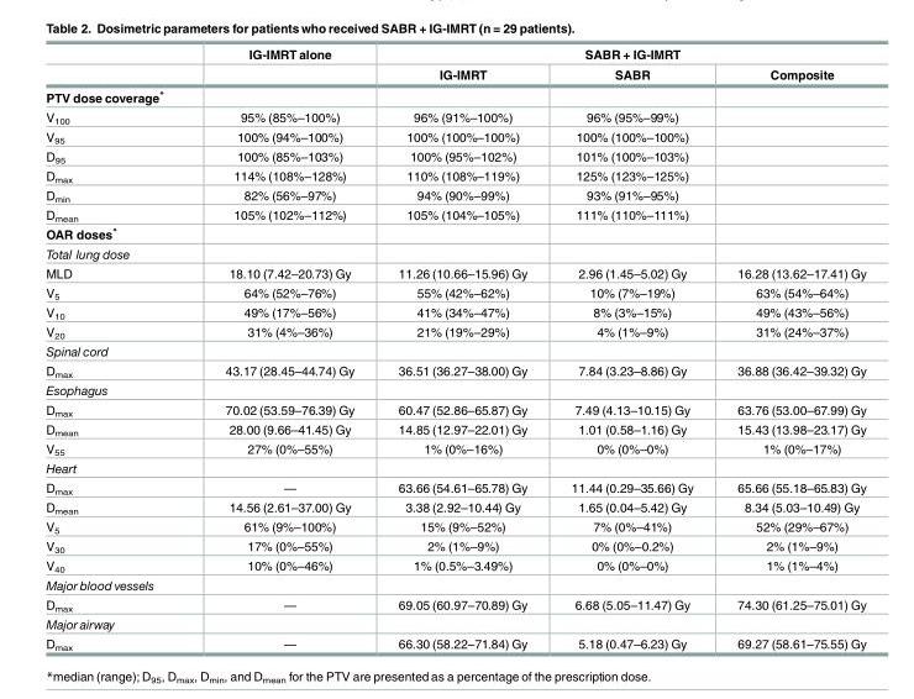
<table><thead><tr><td rowspan="2"></td><td rowspan="2">IG-IMRT alone</td><td colspan="3">SABR + IG-IMRT</td></tr><tr><td>IG-IMRT</td><td>SABR</td><td>Composite</td></tr></thead><tbody><tr><td colspan="5">PTV dose coverage*</td></tr><tr><td>V<sub>100</sub></td><td>95% (85%–100%)</td><td>96% (91%–100%)</td><td>96% (95%–99%)</td><td></td></tr><tr><td>V<sub>95</sub></td><td>100% (94%–100%)</td><td>100% (100%–100%)</td><td>100% (100%–100%)</td><td></td></tr><tr><td>D<sub>95</sub></td><td>100% (85%–103%)</td><td>100% (95%–102%)</td><td>101% (100%–103%)</td><td></td></tr><tr><td>D<sub>max</sub></td><td>114% (108%–128%)</td><td>110% (108%–119%)</td><td>125% (123%–125%)</td><td></td></tr><tr><td>D<sub>min</sub></td><td>82% (56%–97%)</td><td>94% (90%–99%)</td><td>93% (91%–95%)</td><td></td></tr><tr><td>D<sub>mean</sub></td><td>105% (102%–112%)</td><td>105% (104%–105%)</td><td>111% (110%–111%)</td><td></td></tr><tr><td colspan="5">OAR doses*</td></tr><tr><td colspan="5">Total lung dose</td></tr><tr><td>MLD</td><td>18.10 (7.42–20.73) Gy</td><td>11.26 (10.66–15.96) Gy</td><td>2.96 (1.45–5.02) Gy</td><td>16.28 (13.62–17.41) Gy</td></tr><tr><td>V<sub>5</sub></td><td>64% (52%–76%)</td><td>55% (42%–62%)</td><td>10% (7%–19%)</td><td>63% (54%–64%)</td></tr><tr><td>V<sub>10</sub></td><td>49% (17%–56%)</td><td>41% (34%–47%)</td><td>8% (3%–15%)</td><td>49% (43%–56%)</td></tr><tr><td>V<sub>20</sub></td><td>31% (4%–36%)</td><td>21% (19%–29%)</td><td>4% (1%–9%)</td><td>31% (24%–37%)</td></tr><tr><td colspan="5">Spinal cord</td></tr><tr><td>D<sub>max</sub></td><td>43.17 (28.45–44.74) Gy</td><td>36.51 (36.27–38.00) Gy</td><td>7.84 (3.23–8.86) Gy</td><td>36.88 (36.42–39.32) Gy</td></tr><tr><td colspan="5">Esophagus</td></tr><tr><td>D<sub>max</sub></td><td>70.02 (53.59–76.39) Gy</td><td>60.47 (52.86–65.87) Gy</td><td>7.49 (4.13–10.15) Gy</td><td>63.76 (53.00–67.99) Gy</td></tr><tr><td>D<sub>mean</sub></td><td>28.00 (9.66–41.45) Gy</td><td>14.85 (12.97–22.01) Gy</td><td>1.01 (0.58–1.16) Gy</td><td>15.43 (13.98–23.17) Gy</td></tr><tr><td>V<sub>55</sub></td><td>27% (0%–55%)</td><td>1% (0%–16%)</td><td>0% (0%–0%)</td><td>1% (0%–17%)</td></tr><tr><td colspan="5">Heart</td></tr><tr><td>D<sub>max</sub></td><td>—</td><td>63.66 (54.61–65.78) Gy</td><td>11.44 (0.29–35.66) Gy</td><td>65.66 (55.18–65.83) Gy</td></tr><tr><td>D<sub>mean</sub></td><td>14.56 (2.61–37.00) Gy</td><td>3.38 (2.92–10.44) Gy</td><td>1.65 (0.04–5.42) Gy</td><td>8.34 (5.03–10.49) Gy</td></tr><tr><td>V<sub>5</sub></td><td>61% (9%–100%)</td><td>15% (9%–52%)</td><td>7% (0%–41%)</td><td>52% (29%–67%)</td></tr><tr><td>V<sub>30</sub></td><td>17% (0%–55%)</td><td>2% (1%–9%)</td><td>0% (0%–0.2%)</td><td>2% (1%–9%)</td></tr><tr><td>V<sub>40</sub></td><td>10% (0%–46%)</td><td>1% (0.5%–3.49%)</td><td>0% (0%–0%)</td><td>1% (1%–4%)</td></tr><tr><td colspan="5">Major blood vessels</td></tr><tr><td>D<sub>max</sub></td><td>—</td><td>69.05 (60.97–70.89) Gy</td><td>6.68 (5.05–11.47) Gy</td><td>74.30 (61.25–75.01) Gy</td></tr><tr><td colspan="5">Major airway</td></tr><tr><td>D<sub>max</sub></td><td>—</td><td>66.30 (58.22–71.84) Gy</td><td>5.18 (0.47–6.23) Gy</td><td>69.27 (58.61–75.55) Gy</td></tr></tbody></table>